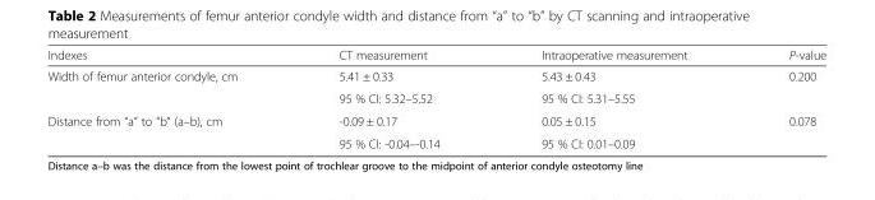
<table><thead><tr><td>Indexes</td><td>CT measurement</td><td>Intraoperative measurement</td><td>P-value</td></tr></thead><tbody><tr><td rowspan="2">Width of femur anterior condyle, cm</td><td>5.41 ± 0.33</td><td>5.43 ± 0.43</td><td rowspan="2">0.200</td></tr><tr><td>95 % CI: 5.32–5.52</td><td>95 % CI: 5.31–5.55</td></tr><tr><td rowspan="2">Distance from “a” to “b” (a–b), cm</td><td>-0.09 ± 0.17</td><td>0.05 ± 0.15</td><td rowspan="2">0.078</td></tr><tr><td>95 % CI: -0.04–-0.14</td><td>95 % CI: 0.01–0.09</td></tr></tbody></table>